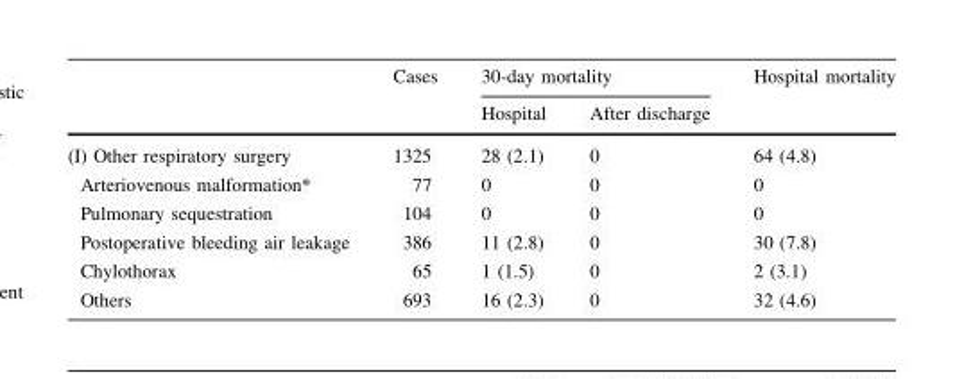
<table><thead><tr><td rowspan="2"></td><td rowspan="2">Cases</td><td colspan="2">30-day mortality</td><td rowspan="2">Hospital mortality</td></tr><tr><td>Hospital</td><td>After discharge</td></tr></thead><tbody><tr><td>(I) Other respiratory surgery</td><td>1325</td><td>28 (2.1)</td><td>0</td><td>64 (4.8)</td></tr><tr><td>Arteriovenous malformation*</td><td>77</td><td>0</td><td>0</td><td>0</td></tr><tr><td>Pulmonary sequestration</td><td>104</td><td>0</td><td>0</td><td>0</td></tr><tr><td>Postoperative bleeding air leakage</td><td>386</td><td>11 (2.8)</td><td>0</td><td>30 (7.8)</td></tr><tr><td>Chylothorax</td><td>65</td><td>1 (1.5)</td><td>0</td><td>2 (3.1)</td></tr><tr><td>Others</td><td>693</td><td>16 (2.3)</td><td>0</td><td>32 (4.6)</td></tr></tbody></table>